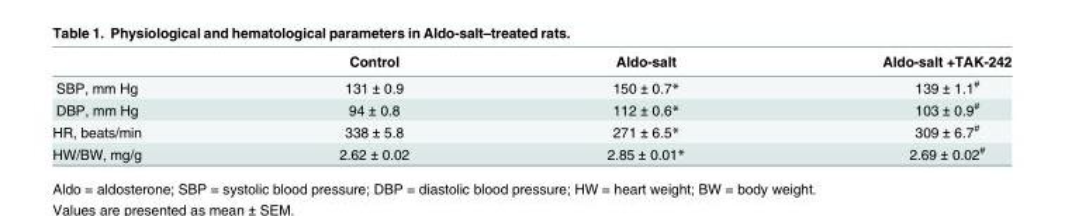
<table><thead><tr><td></td><td>Control</td><td>Aldo-salt</td><td>Aldo-salt +TAK-242</td></tr></thead><tbody><tr><td>SBP, mm Hg</td><td>131 ± 0.9</td><td>150 ± 0.7*</td><td>139 ± 1.1<sup>#</sup></td></tr><tr><td>DBP, mm Hg</td><td>94 ± 0.8</td><td>112 ± 0.6*</td><td>103 ± 0.9<sup>#</sup></td></tr><tr><td>HR, beats/min</td><td>338 ± 5.8</td><td>271 ± 6.5*</td><td>309 ± 6.7<sup>#</sup></td></tr><tr><td>HW/BW, mg/g</td><td>2.62 ± 0.02</td><td>2.85 ± 0.01*</td><td>2.69 ± 0.02<sup>#</sup></td></tr></tbody></table>